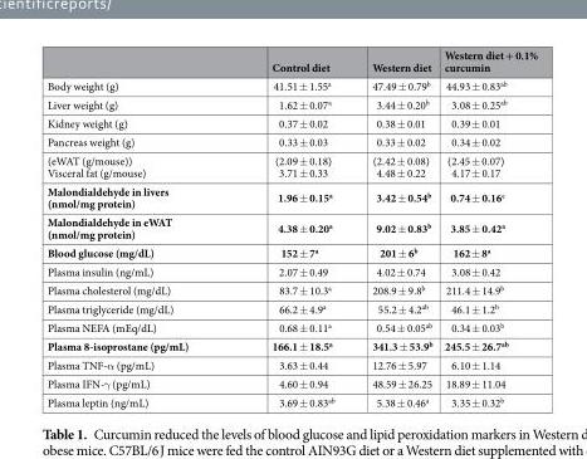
<table><thead><tr><td></td><td>Control diet</td><td>Western diet</td><td>Western diet + 0.1% curcumin</td></tr></thead><tbody><tr><td>Body weight (g)</td><td>41.51 ± 1.55<sup>a</sup></td><td>47.49 ± 0.79<sup>b</sup></td><td>44.93 ± 0.83<sup>ab</sup></td></tr><tr><td>Liver weight (g)</td><td>1.62 ± 0.07<sup>a</sup></td><td>3.44 ± 0.20<sup>b</sup></td><td>3.08 ± 0.25<sup>ab</sup></td></tr><tr><td>Kidney weight (g)</td><td>0.37 ± 0.02</td><td>0.38 ± 0.01</td><td>0.39 ± 0.01</td></tr><tr><td>Pancreas weight (g)</td><td>0.33 ± 0.03</td><td>0.33 ± 0.02</td><td>0.34 ± 0.02</td></tr><tr><td>(eWAT (g/mouse)) Visceral fat (g/mouse)</td><td>(2.09 ± 0.18) 3.71 ± 0.33</td><td>(2.42 ± 0.08) 4.48 ± 0.22</td><td>(2.45 ± 0.07) 4.17 ± 0.17</td></tr><tr><td>Malondialdehyde in livers (nmol/mg protein)</td><td>1.96 ± 0.15<sup>a</sup></td><td>3.42 ± 0.54<sup>b</sup></td><td>0.74 ± 0.16<sup>c</sup></td></tr><tr><td>Malondialdehyde in eWAT (nmol/mg protein)</td><td>4.38 ± 0.20<sup>a</sup></td><td>9.02 ± 0.83<sup>b</sup></td><td>3.85 ± 0.42<sup>a</sup></td></tr><tr><td>Blood glucose (mg/dL)</td><td>152 ± 7<sup>a</sup></td><td>201 ± 6<sup>b</sup></td><td>162 ± 8<sup>a</sup></td></tr><tr><td>Plasma insulin (ng/mL)</td><td>2.07 ± 0.49</td><td>4.02 ± 0.74</td><td>3.08 ± 0.42</td></tr><tr><td>Plasma cholesterol (mg/dL)</td><td>83.7 ± 10.3<sup>a</sup></td><td>208.9 ± 9.8<sup>b</sup></td><td>211.4 ± 14.9<sup>b</sup></td></tr><tr><td>Plasma triglyceride (mg/dL)</td><td>66.2 ± 4.9<sup>a</sup></td><td>55.2 ± 4.2<sup>ab</sup></td><td>46.1 ± 1.2<sup>b</sup></td></tr><tr><td>Plasma NEFA (mEq/dL)</td><td>0.68 ± 0.11<sup>a</sup></td><td>0.54 ± 0.05<sup>ab</sup></td><td>0.34 ± 0.03<sup>b</sup></td></tr><tr><td>Plasma 8-isoprostane (pg/mL)</td><td>166.1 ± 18.5<sup>a</sup></td><td>341.3 ± 53.9<sup>b</sup></td><td>245.5 ± 26.7<sup>ab</sup></td></tr><tr><td>Plasma TNF-α (pg/mL)</td><td>3.63 ± 0.44</td><td>12.76 ± 5.97</td><td>6.10 ± 1.14</td></tr><tr><td>Plasma IFN-γ (pg/mL)</td><td>4.60 ± 0.94</td><td>48.59 ± 26.25</td><td>18.89 ± 11.04</td></tr><tr><td>Plasma leptin (ng/mL)</td><td>3.69 ± 0.83<sup>ab</sup></td><td>5.38 ± 0.46<sup>a</sup></td><td>3.35 ± 0.32<sup>b</sup></td></tr></tbody></table>